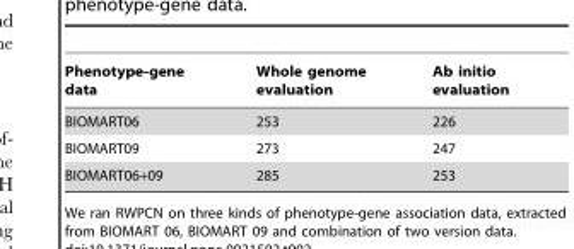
<table><thead><tr><td>Phenotype-gene data</td><td>Whole genome evaluation</td><td>Ab initio evaluation</td></tr></thead><tbody><tr><td>BIOMART06</td><td>253</td><td>226</td></tr><tr><td>BIOMART09</td><td>273</td><td>247</td></tr><tr><td>BIOMART06+09</td><td>285</td><td>253</td></tr></tbody></table>